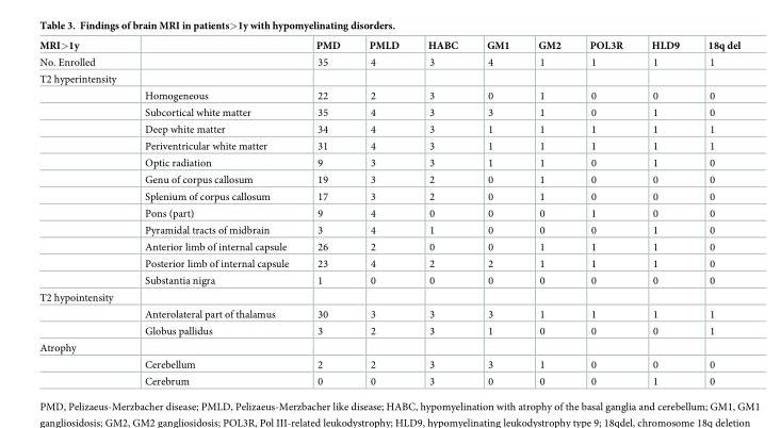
<table><thead><tr><td>MRI&gt;1y</td><td></td><td>PMD</td><td>PMLD</td><td>HABC</td><td>GM1</td><td>GM2</td><td>POL3R</td><td>HLD9</td><td>18q del</td></tr></thead><tbody><tr><td>No. Enrolled</td><td></td><td>35</td><td>4</td><td>3</td><td>4</td><td>1</td><td>1</td><td>1</td><td>1</td></tr><tr><td colspan="10">T2 hyperintensity</td></tr><tr><td></td><td>Homogeneous</td><td>22</td><td>2</td><td>3</td><td>0</td><td>1</td><td>0</td><td>0</td><td>0</td></tr><tr><td></td><td>Subcortical white matter</td><td>35</td><td>4</td><td>3</td><td>3</td><td>1</td><td>0</td><td>1</td><td>0</td></tr><tr><td></td><td>Deep white matter</td><td>34</td><td>4</td><td>3</td><td>1</td><td>1</td><td>1</td><td>1</td><td>1</td></tr><tr><td></td><td>Periventricular white matter</td><td>31</td><td>4</td><td>3</td><td>1</td><td>1</td><td>1</td><td>1</td><td>1</td></tr><tr><td></td><td>Optic radiation</td><td>9</td><td>3</td><td>3</td><td>1</td><td>1</td><td>0</td><td>1</td><td>0</td></tr><tr><td></td><td>Genu of corpus callosum</td><td>19</td><td>3</td><td>2</td><td>0</td><td>1</td><td>0</td><td>0</td><td>0</td></tr><tr><td></td><td>Splenium of corpus callosum</td><td>17</td><td>3</td><td>2</td><td>0</td><td>1</td><td>0</td><td>0</td><td>0</td></tr><tr><td></td><td>Pons (part)</td><td>9</td><td>4</td><td>0</td><td>0</td><td>0</td><td>1</td><td>0</td><td>0</td></tr><tr><td></td><td>Pyramidal tracts of midbrain</td><td>3</td><td>4</td><td>1</td><td>0</td><td>0</td><td>0</td><td>1</td><td>0</td></tr><tr><td></td><td>Anterior limb of internal capsule</td><td>26</td><td>2</td><td>0</td><td>0</td><td>1</td><td>1</td><td>1</td><td>0</td></tr><tr><td></td><td>Posterior limb of internal capsule</td><td>23</td><td>4</td><td>2</td><td>2</td><td>1</td><td>1</td><td>1</td><td>0</td></tr><tr><td></td><td>Substantia nigra</td><td>1</td><td>0</td><td>0</td><td>0</td><td>0</td><td>0</td><td>0</td><td>0</td></tr><tr><td colspan="10">T2 hypointensity</td></tr><tr><td></td><td>Anterolateral part of thalamus</td><td>30</td><td>3</td><td>3</td><td>3</td><td>1</td><td>1</td><td>1</td><td>1</td></tr><tr><td></td><td>Globus pallidus</td><td>3</td><td>2</td><td>3</td><td>1</td><td>0</td><td>0</td><td>0</td><td>1</td></tr><tr><td colspan="10">Atrophy</td></tr><tr><td></td><td>Cerebellum</td><td>2</td><td>2</td><td>3</td><td>3</td><td>1</td><td>0</td><td>0</td><td>0</td></tr><tr><td></td><td>Cerebrum</td><td>0</td><td>0</td><td>3</td><td>0</td><td>0</td><td>0</td><td>1</td><td>0</td></tr></tbody></table>